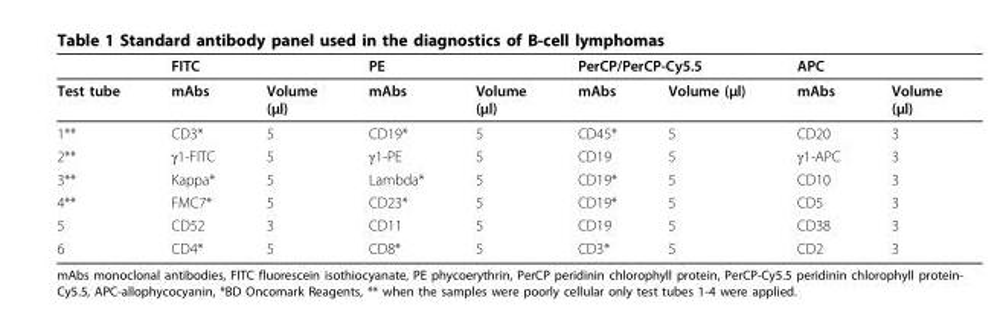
<table><thead><tr><td rowspan="2">Test tube</td><td colspan="2">FITC</td><td colspan="2">PE</td><td colspan="2">PerCP/PerCP-Cy5.5</td><td colspan="2">APC</td></tr><tr><td>mAbs</td><td>Volume (μl)</td><td>mAbs</td><td>Volume (μl)</td><td>mAbs</td><td>Volume (μl)</td><td>mAbs</td><td>Volume (μl)</td></tr></thead><tbody><tr><td>1**</td><td>CD3*</td><td>5</td><td>CD19*</td><td>5</td><td>CD45*</td><td>5</td><td>CD20</td><td>3</td></tr><tr><td>2**</td><td>γ1-FITC</td><td>5</td><td>γ1-PE</td><td>5</td><td>CD19</td><td>5</td><td>γ1-APC</td><td>3</td></tr><tr><td>3**</td><td>Kappa*</td><td>5</td><td>Lambda*</td><td>5</td><td>CD19*</td><td>5</td><td>CD10</td><td>3</td></tr><tr><td>4**</td><td>FMC7*</td><td>5</td><td>CD23*</td><td>5</td><td>CD19*</td><td>5</td><td>CD5</td><td>3</td></tr><tr><td>5</td><td>CD52</td><td>3</td><td>CD11</td><td>5</td><td>CD19</td><td>5</td><td>CD38</td><td>3</td></tr><tr><td>6</td><td>CD4*</td><td>5</td><td>CD8*</td><td>5</td><td>CD3*</td><td>5</td><td>CD2</td><td>3</td></tr></tbody></table>